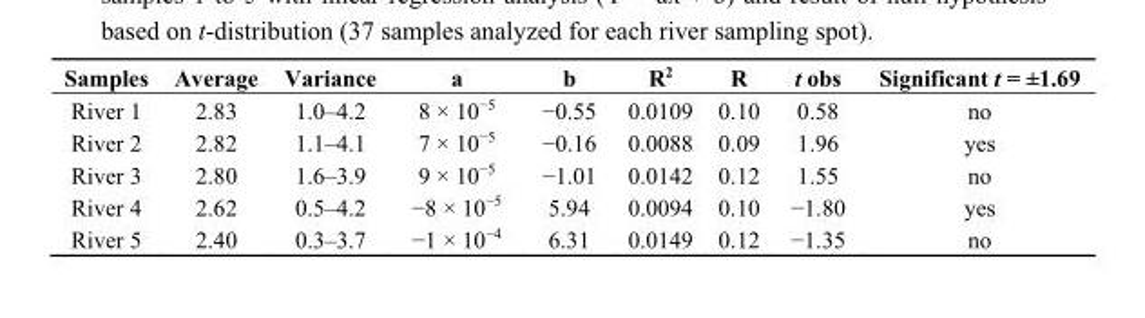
<table><thead><tr><td>Samples</td><td>Average</td><td>Variance</td><td>a</td><td>b</td><td>R<sup>2</sup></td><td>R</td><td>t obs</td><td>Significant t = ±1.69</td></tr></thead><tbody><tr><td>River 1</td><td>2.83</td><td>1.0–4.2</td><td>8 × 10<sup>−5</sup></td><td>−0.55</td><td>0.0109</td><td>0.10</td><td>0.58</td><td>no</td></tr><tr><td>River 2</td><td>2.82</td><td>1.1–4.1</td><td>7 × 10<sup>−5</sup></td><td>−0.16</td><td>0.0088</td><td>0.09</td><td>1.96</td><td>yes</td></tr><tr><td>River 3</td><td>2.80</td><td>1.6–3.9</td><td>9 × 10<sup>−5</sup></td><td>−1.01</td><td>0.0142</td><td>0.12</td><td>1.55</td><td>no</td></tr><tr><td>River 4</td><td>2.62</td><td>0.5–4.2</td><td>−8 × 10<sup>−5</sup></td><td>5.94</td><td>0.0094</td><td>0.10</td><td>−1.80</td><td>yes</td></tr><tr><td>River 5</td><td>2.40</td><td>0.3–3.7</td><td>−1 × 10<sup>−4</sup></td><td>6.31</td><td>0.0149</td><td>0.12</td><td>−1.35</td><td>no</td></tr></tbody></table>